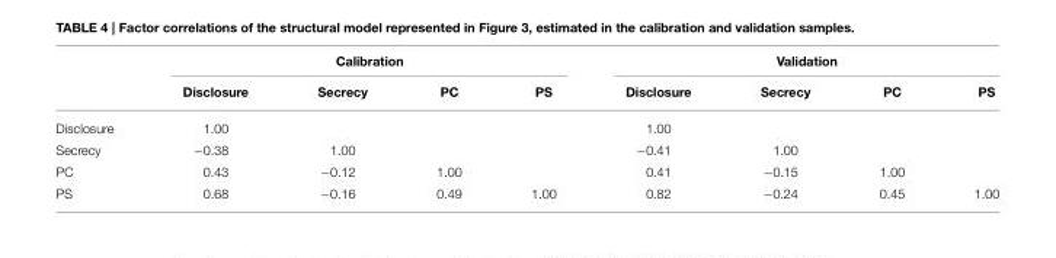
<table><thead><tr><td rowspan="2"></td><td colspan="4">Calibration</td><td colspan="4">Validation</td></tr><tr><td>Disclosure</td><td>Secrecy</td><td>PC</td><td>PS</td><td>Disclosure</td><td>Secrecy</td><td>PC</td><td>PS</td></tr></thead><tbody><tr><td>Disclosure</td><td>1.00</td><td></td><td></td><td></td><td>1.00</td><td></td><td></td><td></td></tr><tr><td>Secrecy</td><td>−0.38</td><td>1.00</td><td></td><td></td><td>−0.41</td><td>1.00</td><td></td><td></td></tr><tr><td>PC</td><td>0.43</td><td>−0.12</td><td>1.00</td><td></td><td>0.41</td><td>−0.15</td><td>1.00</td><td></td></tr><tr><td>PS</td><td>0.68</td><td>−0.16</td><td>0.49</td><td>1.00</td><td>0.82</td><td>−0.24</td><td>0.45</td><td>1.00</td></tr></tbody></table>